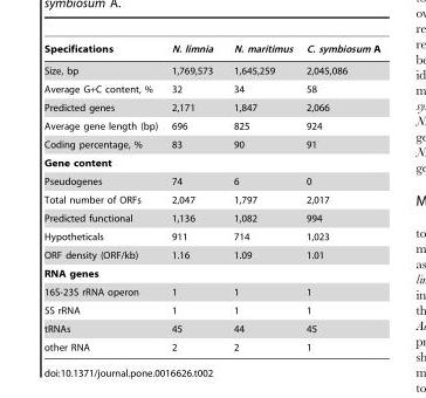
<table><thead><tr><td>Specifications</td><td>N. limnia</td><td>N. maritimus</td><td>C. symbiosum A</td></tr></thead><tbody><tr><td>Size, bp</td><td>1,769,573</td><td>1,645,259</td><td>2,045,086</td></tr><tr><td>Average G+C content, %</td><td>32</td><td>34</td><td>58</td></tr><tr><td>Predicted genes</td><td>2,171</td><td>1,847</td><td>2,066</td></tr><tr><td>Average gene length (bp)</td><td>696</td><td>825</td><td>924</td></tr><tr><td>Coding percentage, %</td><td>83</td><td>90</td><td>91</td></tr><tr><td colspan="4">Gene content</td></tr><tr><td>Pseudogenes</td><td>74</td><td>6</td><td>0</td></tr><tr><td>Total number of ORFs</td><td>2,047</td><td>1,797</td><td>2,017</td></tr><tr><td>Predicted functional</td><td>1,136</td><td>1,082</td><td>994</td></tr><tr><td>Hypotheticals</td><td>911</td><td>714</td><td>1,023</td></tr><tr><td>ORF density (ORF/kb)</td><td>1.16</td><td>1.09</td><td>1.01</td></tr><tr><td colspan="4">RNA genes</td></tr><tr><td>16S-23S rRNA operon</td><td>1</td><td>1</td><td>1</td></tr><tr><td>5S rRNA</td><td>1</td><td>1</td><td>1</td></tr><tr><td>tRNAs</td><td>45</td><td>44</td><td>45</td></tr><tr><td>other RNA</td><td>2</td><td>2</td><td>1</td></tr></tbody></table>